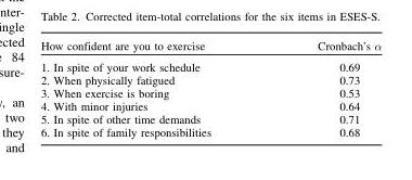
<table><thead><tr><td>How confident are you to exercise</td><td>Cronbach’s</td></tr></thead><tbody><tr><td>1. In spite of your work schedule</td><td>0.69</td></tr><tr><td>2. When physically fatigued</td><td>0.73</td></tr><tr><td>3. When exercise is boring</td><td>0.53</td></tr><tr><td>4. With minor injuries</td><td>0.64</td></tr><tr><td>5. In spite of other time demands</td><td>0.71</td></tr><tr><td>6. In spite of family responsibilities</td><td>0.68</td></tr></tbody></table>